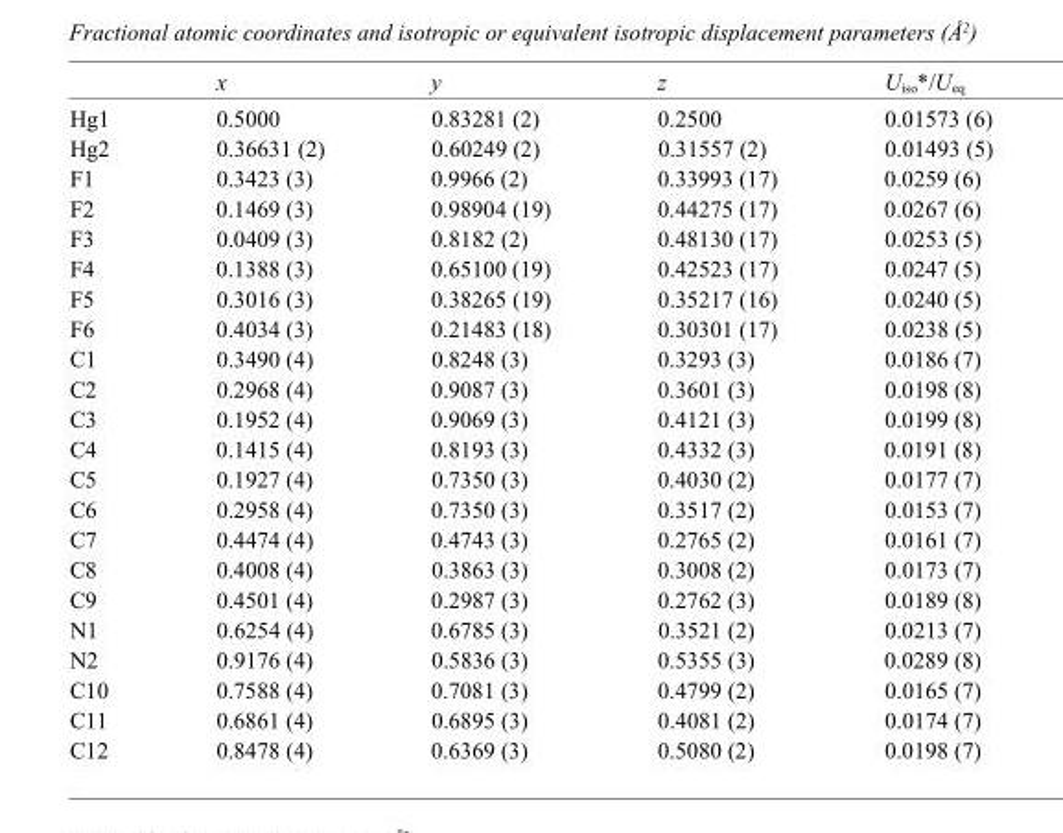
<table><thead><tr><td></td><td>x</td><td>y</td><td>z</td><td>U<sub>iso</sub>*/U<sub>eq</sub></td></tr></thead><tbody><tr><td>Hg1</td><td>0.5000</td><td>0.83281 (2)</td><td>0.2500</td><td>0.01573 (6)</td></tr><tr><td>Hg2</td><td>0.36631 (2)</td><td>0.60249 (2)</td><td>0.31557 (2)</td><td>0.01493 (5)</td></tr><tr><td>F1</td><td>0.3423 (3)</td><td>0.9966 (2)</td><td>0.33993 (17)</td><td>0.0259 (6)</td></tr><tr><td>F2</td><td>0.1469 (3)</td><td>0.98904 (19)</td><td>0.44275 (17)</td><td>0.0267 (6)</td></tr><tr><td>F3</td><td>0.0409 (3)</td><td>0.8182 (2)</td><td>0.48130 (17)</td><td>0.0253 (5)</td></tr><tr><td>F4</td><td>0.1388 (3)</td><td>0.65100 (19)</td><td>0.42523 (17)</td><td>0.0247 (5)</td></tr><tr><td>F5</td><td>0.3016 (3)</td><td>0.38265 (19)</td><td>0.35217 (16)</td><td>0.0240 (5)</td></tr><tr><td>F6</td><td>0.4034 (3)</td><td>0.21483 (18)</td><td>0.30301 (17)</td><td>0.0238 (5)</td></tr><tr><td>C1</td><td>0.3490 (4)</td><td>0.8248 (3)</td><td>0.3293 (3)</td><td>0.0186 (7)</td></tr><tr><td>C2</td><td>0.2968 (4)</td><td>0.9087 (3)</td><td>0.3601 (3)</td><td>0.0198 (8)</td></tr><tr><td>C3</td><td>0.1952 (4)</td><td>0.9069 (3)</td><td>0.4121 (3)</td><td>0.0199 (8)</td></tr><tr><td>C4</td><td>0.1415 (4)</td><td>0.8193 (3)</td><td>0.4332 (3)</td><td>0.0191 (8)</td></tr><tr><td>C5</td><td>0.1927 (4)</td><td>0.7350 (3)</td><td>0.4030 (2)</td><td>0.0177 (7)</td></tr><tr><td>C6</td><td>0.2958 (4)</td><td>0.7350 (3)</td><td>0.3517 (2)</td><td>0.0153 (7)</td></tr><tr><td>C7</td><td>0.4474 (4)</td><td>0.4743 (3)</td><td>0.2765 (2)</td><td>0.0161 (7)</td></tr><tr><td>C8</td><td>0.4008 (4)</td><td>0.3863 (3)</td><td>0.3008 (2)</td><td>0.0173 (7)</td></tr><tr><td>C9</td><td>0.4501 (4)</td><td>0.2987 (3)</td><td>0.2762 (3)</td><td>0.0189 (8)</td></tr><tr><td>N1</td><td>0.6254 (4)</td><td>0.6785 (3)</td><td>0.3521 (2)</td><td>0.0213 (7)</td></tr><tr><td>N2</td><td>0.9176 (4)</td><td>0.5836 (3)</td><td>0.5355 (3)</td><td>0.0289 (8)</td></tr><tr><td>C10</td><td>0.7588 (4)</td><td>0.7081 (3)</td><td>0.4799 (2)</td><td>0.0165 (7)</td></tr><tr><td>C11</td><td>0.6861 (4)</td><td>0.6895 (3)</td><td>0.4081 (2)</td><td>0.0174 (7)</td></tr><tr><td>C12</td><td>0.8478 (4)</td><td>0.6369 (3)</td><td>0.5080 (2)</td><td>0.0198 (7)</td></tr></tbody></table>